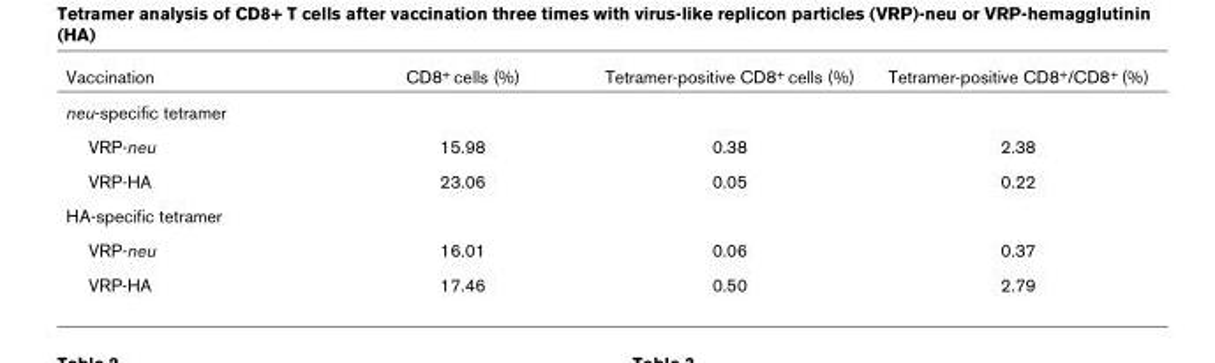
<table><thead><tr><td>Vaccination</td><td>CD8+ cells (%)</td><td>Tetramer-positive CD8+ cells (%)</td><td>Tetramer-positive CD8+/CD8+ (%)</td></tr></thead><tbody><tr><td colspan="4">neu-specific tetramer</td></tr><tr><td>VRP-neu</td><td>15.98</td><td>0.38</td><td>2.38</td></tr><tr><td>VRP-HA</td><td>23.06</td><td>0.05</td><td>0.22</td></tr><tr><td colspan="4">HA-specific tetramer</td></tr><tr><td>VRP-neu</td><td>16.01</td><td>0.06</td><td>0.37</td></tr><tr><td>VRP-HA</td><td>17.46</td><td>0.50</td><td>2.79</td></tr></tbody></table>